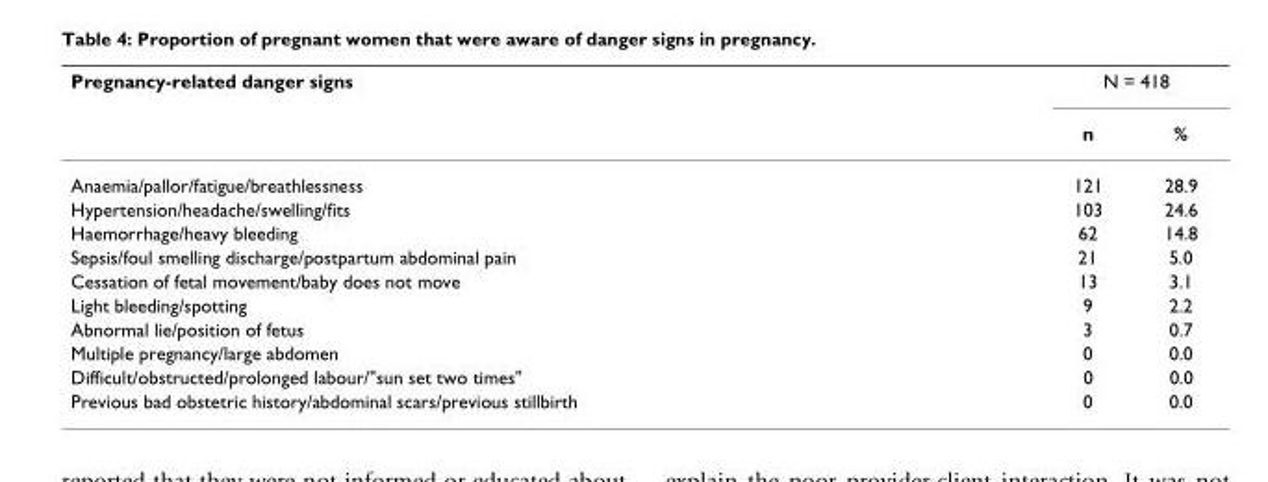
<table><thead><tr><td rowspan="2">Pregnancy-related danger signs</td><td colspan="2">N = 418</td></tr><tr><td>n</td><td>%</td></tr></thead><tbody><tr><td>Anaemia/pallor/fatigue/breathlessness</td><td>121</td><td>28.9</td></tr><tr><td>Hypertension/headache/swelling/fits</td><td>103</td><td>24.6</td></tr><tr><td>Haemorrhage/heavy bleeding</td><td>62</td><td>14.8</td></tr><tr><td>Sepsis/foul smelling discharge/postpartum abdominal pain</td><td>21</td><td>5.0</td></tr><tr><td>Cessation of fetal movement/baby does not move</td><td>13</td><td>3.1</td></tr><tr><td>Light bleeding/spotting</td><td>9</td><td>2.2</td></tr><tr><td>Abnormal lie/position of fetus</td><td>3</td><td>0.7</td></tr><tr><td>Multiple pregnancy/large abdomen</td><td>0</td><td>0.0</td></tr><tr><td>Difficult/obstructed/prolonged labour/&quot;sun set two times&quot;</td><td>0</td><td>0.0</td></tr><tr><td>Previous bad obstetric history/abdominal scars/previous stillbirth</td><td>0</td><td>0.0</td></tr></tbody></table>